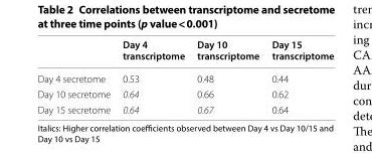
<table><thead><tr><td></td><td>Day 4 transcriptome</td><td>Day 10 transcriptome</td><td>Day 15 transcriptome</td></tr></thead><tbody><tr><td>Day 4 secretome</td><td>0.53</td><td>0.48</td><td>0.44</td></tr><tr><td>Day 10 secretome</td><td>0.64</td><td>0.66</td><td>0.62</td></tr><tr><td>Day 15 secretome</td><td>0.64</td><td>0.67</td><td>0.64</td></tr></tbody></table>